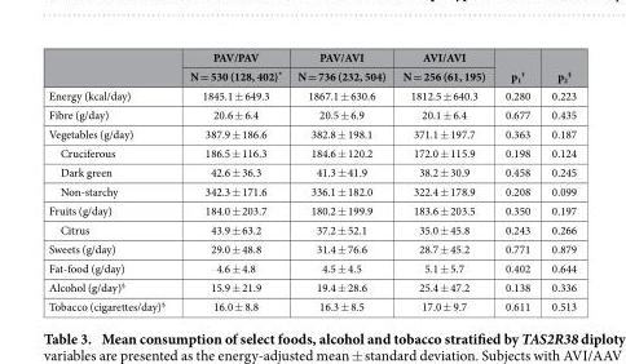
<table><thead><tr><td rowspan="2"></td><td rowspan="2">PAV/PAV N = 530 (128, 402)*</td><td rowspan="2">PAV/AVI N = 736 (232, 504)</td><td rowspan="2">AVI/AVI N = 256 (61, 195)</td><td rowspan="2">p<sub>1</sub> †</td><td rowspan="2">p<sub>2</sub> ‡</td></tr><tr></tr></thead><tbody><tr><td>Energy (kcal/day)</td><td>1845.1 ± 649.3</td><td>1867.1 ± 630.6</td><td>1812.5 ± 640.3</td><td>0.280</td><td>0.223</td></tr><tr><td>Fibre (g/day)</td><td>20.6 ± 6.4</td><td>20.5 ± 6.9</td><td>20.1 ± 6.4</td><td>0.677</td><td>0.435</td></tr><tr><td>Vegetables (g/day)</td><td>387.9 ± 186.6</td><td>382.8 ± 198.1</td><td>371.1 ± 197.7</td><td>0.363</td><td>0.187</td></tr><tr><td>Cruciferous</td><td>186.5 ± 116.3</td><td>184.6 ± 120.2</td><td>172.0 ± 115.9</td><td>0.198</td><td>0.124</td></tr><tr><td>Dark green</td><td>42.6 ± 36.3</td><td>41.3 ± 41.9</td><td>38.2 ± 30.9</td><td>0.458</td><td>0.245</td></tr><tr><td>Non-starchy</td><td>342.3 ± 171.6</td><td>336.1 ± 182.0</td><td>322.4 ± 178.9</td><td>0.208</td><td>0.099</td></tr><tr><td>Fruits (g/day)</td><td>184.0 ± 203.7</td><td>180.2 ± 199.9</td><td>183.6 ± 203.5</td><td>0.350</td><td>0.197</td></tr><tr><td>Citrus</td><td>43.9 ± 63.2</td><td>37.2 ± 52.1</td><td>35.0 ± 45.8</td><td>0.243</td><td>0.266</td></tr><tr><td>Sweets (g/day)</td><td>29.0 ± 48.8</td><td>31.4 ± 76.6</td><td>28.7 ± 45.2</td><td>0.771</td><td>0.879</td></tr><tr><td>Fat-food (g/day)</td><td>4.6 ± 4.8</td><td>4.5 ± 4.5</td><td>5.1 ± 5.7</td><td>0.402</td><td>0.644</td></tr><tr><td>Alcohol (g/day)§</td><td>15.9 ± 21.9</td><td>19.4 ± 28.6</td><td>25.4 ± 47.2</td><td>0.138</td><td>0.336</td></tr><tr><td>Tobacco (cigarettes/day)§</td><td>16.0 ± 8.8</td><td>16.3 ± 8.5</td><td>17.0 ± 9.7</td><td>0.611</td><td>0.513</td></tr></tbody></table>